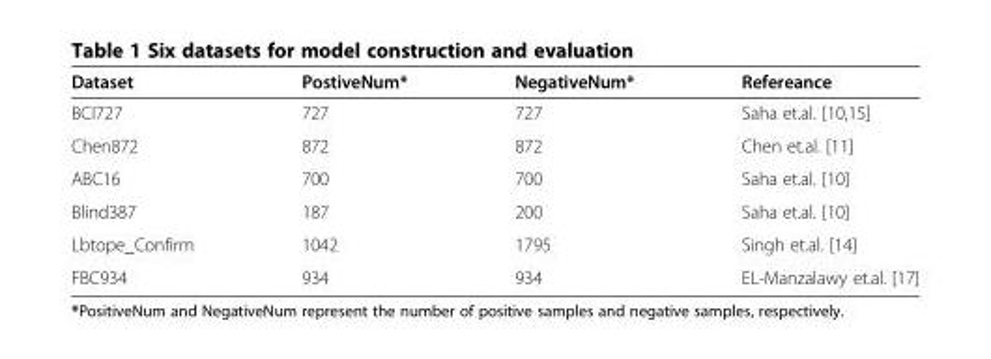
<table><thead><tr><td>Dataset</td><td>PostiveNum*</td><td>NegativeNum*</td><td>Refereance</td></tr></thead><tbody><tr><td>BCI727</td><td>727</td><td>727</td><td>Saha et.al. [10,15]</td></tr><tr><td>Chen872</td><td>872</td><td>872</td><td>Chen et.al. [11]</td></tr><tr><td>ABC16</td><td>700</td><td>700</td><td>Saha et.al. [10]</td></tr><tr><td>Blind387</td><td>187</td><td>200</td><td>Saha et.al. [10]</td></tr><tr><td>Lbtope_Confirm</td><td>1042</td><td>1795</td><td>Singh et.al. [14]</td></tr><tr><td>FBC934</td><td>934</td><td>934</td><td>EL-Manzalawy et.al. [17]</td></tr></tbody></table>